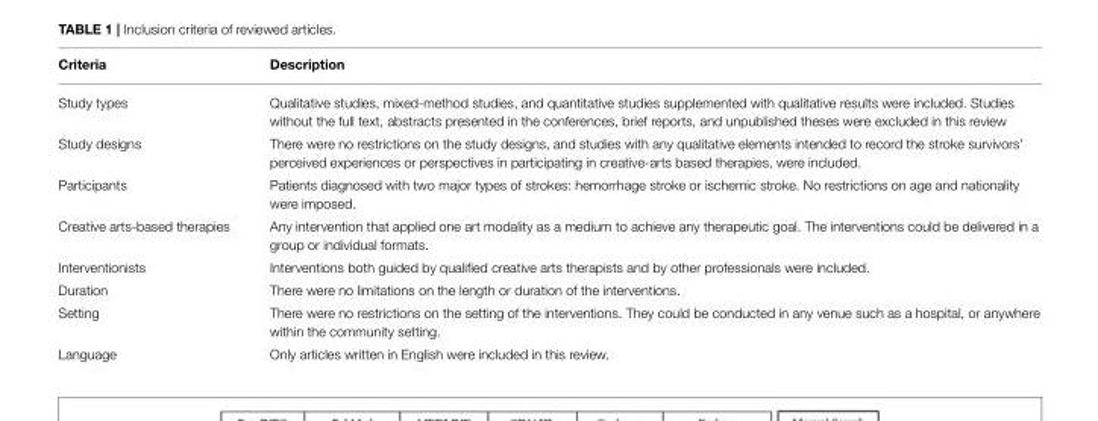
<table><thead><tr><td>Criteria</td><td>Description</td></tr></thead><tbody><tr><td>Study types</td><td>Qualitative studies, mixed-method studies, and quantitative studies supplemented with qualitative results were included. Studies without the full text, abstracts presented in the conferences, brief reports, and unpublished theses were excluded in this review</td></tr><tr><td>Study designs</td><td>There were no restrictions on the study designs, and studies with any qualitative elements intended to record the stroke survivors’ perceived experiences or perspectives in participating in creative-arts based therapies, were included.</td></tr><tr><td>Participants</td><td>Patients diagnosed with two major types of strokes: hemorrhage stroke or ischemic stroke. No restrictions on age and nationality were imposed.</td></tr><tr><td>Creative arts-based therapies</td><td>Any intervention that applied one art modality as a medium to achieve any therapeutic goal. The interventions could be delivered in a group or individual formats.</td></tr><tr><td>Interventionists</td><td>Interventions both guided by qualified creative arts therapists and by other professionals were included.</td></tr><tr><td>Duration</td><td>There were no limitations on the length or duration of the interventions.</td></tr><tr><td>Setting</td><td>There were no restrictions on the setting of the interventions. They could be conducted in any venue such as a hospital, or anywhere within the community setting.</td></tr><tr><td>Language</td><td>Only articles written in English were included in this review.</td></tr></tbody></table>